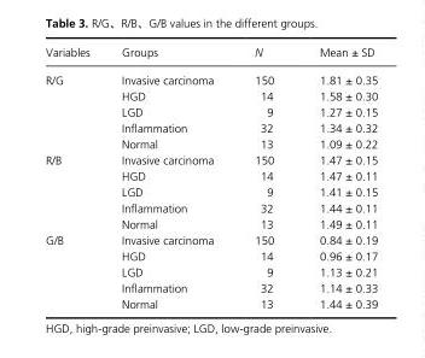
<table><thead><tr><td>Variables</td><td>Groups</td><td>N</td><td>Mean ± SD</td></tr></thead><tbody><tr><td rowspan="5">R/G</td><td>Invasive carcinoma</td><td>150</td><td>1.81 ± 0.35</td></tr><tr><td>HGD</td><td>14</td><td>1.58 ± 0.30</td></tr><tr><td>LGD</td><td>9</td><td>1.27 ± 0.15</td></tr><tr><td>Inflammation</td><td>32</td><td>1.34 ± 0.32</td></tr><tr><td>Normal</td><td>13</td><td>1.09 ± 0.22</td></tr><tr><td rowspan="5">R/B</td><td>Invasive carcinoma</td><td>150</td><td>1.47 ± 0.15</td></tr><tr><td>HGD</td><td>14</td><td>1.47 ± 0.11</td></tr><tr><td>LGD</td><td>9</td><td>1.41 ± 0.15</td></tr><tr><td>Inflammation</td><td>32</td><td>1.44 ± 0.11</td></tr><tr><td>Normal</td><td>13</td><td>1.49 ± 0.11</td></tr><tr><td rowspan="5">G/B</td><td>Invasive carcinoma</td><td>150</td><td>0.84 ± 0.19</td></tr><tr><td>HGD</td><td>14</td><td>0.96 ± 0.17</td></tr><tr><td>LGD</td><td>9</td><td>1.13 ± 0.21</td></tr><tr><td>Inflammation</td><td>32</td><td>1.14 ± 0.33</td></tr><tr><td>Normal</td><td>13</td><td>1.44 ± 0.39</td></tr></tbody></table>